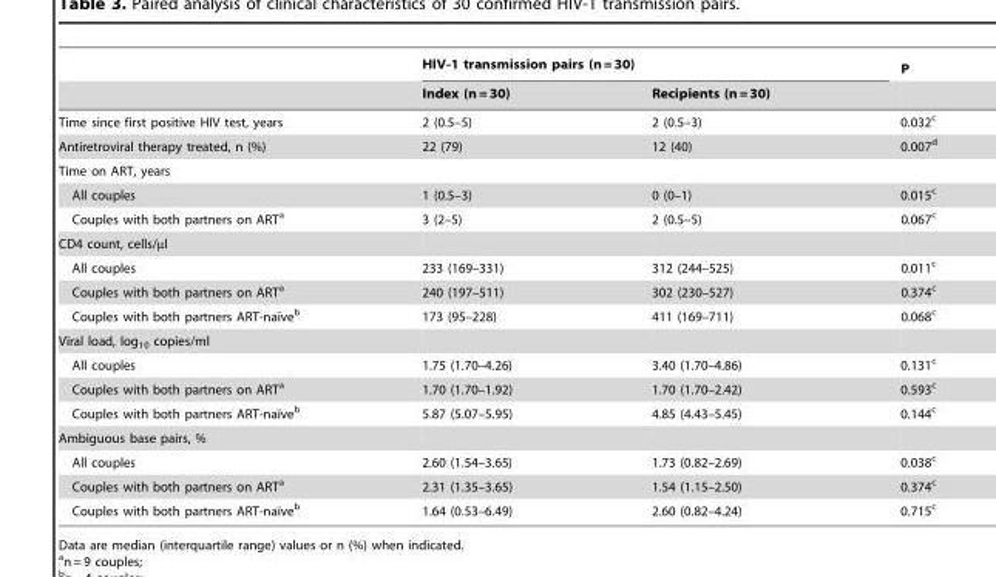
<table><thead><tr><td rowspan="2"></td><td colspan="2">HIV-1 transmission pairs (n = 30)</td><td rowspan="2">P</td></tr><tr><td>Index (n = 30)</td><td>Recipients (n = 30)</td></tr></thead><tbody><tr><td>Time since first positive HIV test, years</td><td>2 (0.5–5)</td><td>2 (0.5–3)</td><td>0.032<sup>c</sup></td></tr><tr><td>Antiretroviral therapy treated, n (%)</td><td>22 (79)</td><td>12 (40)</td><td>0.007<sup>d</sup></td></tr><tr><td colspan="4">Time on ART, years</td></tr><tr><td>All couples</td><td>1 (0.5–3)</td><td>0 (0–1)</td><td>0.015<sup>c</sup></td></tr><tr><td>Couples with both partners on ART<sup>a</sup></td><td>3 (2–5)</td><td>2 (0.5–5)</td><td>0.067<sup>c</sup></td></tr><tr><td colspan="4">CD4 count, cells/µl</td></tr><tr><td>All couples</td><td>233 (169–331)</td><td>312 (244–525)</td><td>0.011<sup>c</sup></td></tr><tr><td>Couples with both partners on ART<sup>a</sup></td><td>240 (197–511)</td><td>302 (230–527)</td><td>0.374<sup>c</sup></td></tr><tr><td>Couples with both partners ART-naı¨veb</td><td>173 (95–228)</td><td>411 (169–711)</td><td>0.068<sup>c</sup></td></tr><tr><td colspan="4">Viral load, log<sub>10</sub> copies/ml</td></tr><tr><td>All couples</td><td>1.75 (1.70–4.26)</td><td>3.40 (1.70–4.86)</td><td>0.131<sup>c</sup></td></tr><tr><td>Couples with both partners on ART<sup>a</sup></td><td>1.70 (1.70–1.92)</td><td>1.70 (1.70–2.42)</td><td>0.593<sup>c</sup></td></tr><tr><td>Couples with both partners ART-naı¨veb</td><td>5.87 (5.07–5.95)</td><td>4.85 (4.43–5.45)</td><td>0.144<sup>c</sup></td></tr><tr><td colspan="4">Ambiguous base pairs, %</td></tr><tr><td>All couples</td><td>2.60 (1.54–3.65)</td><td>1.73 (0.82–2.69)</td><td>0.038<sup>c</sup></td></tr><tr><td>Couples with both partners on ART<sup>a</sup></td><td>2.31 (1.35–3.65)</td><td>1.54 (1.15–2.50)</td><td>0.374<sup>c</sup></td></tr><tr><td>Couples with both partners ART-naı¨veb</td><td>1.64 (0.53–6.49)</td><td>2.60 (0.82–4.24)</td><td>0.715<sup>c</sup></td></tr></tbody></table>